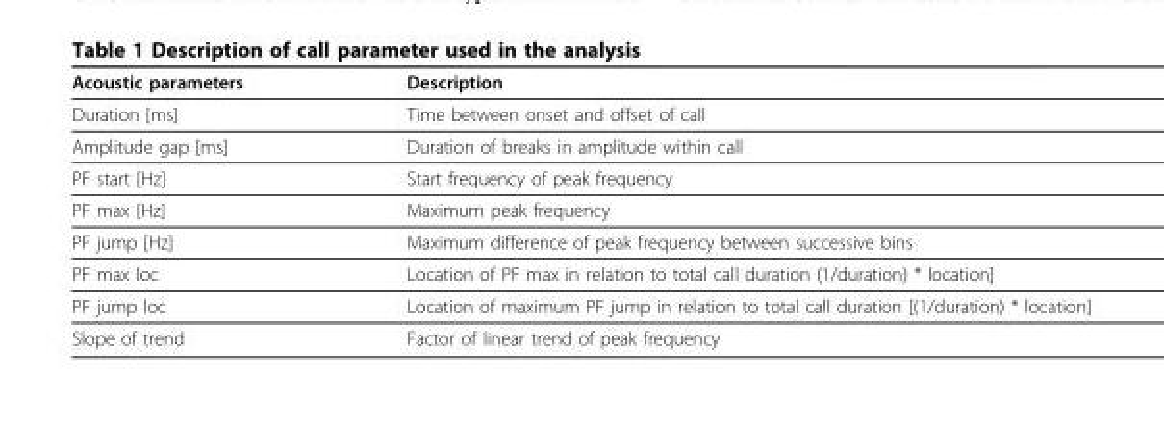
<table><thead><tr><td>Acoustic parameters</td><td>Description</td></tr></thead><tbody><tr><td>Duration [ms]</td><td>Time between onset and offset of call</td></tr><tr><td>Amplitude gap [ms]</td><td>Duration of breaks in amplitude within call</td></tr><tr><td>PF start [Hz]</td><td>Start frequency of peak frequency</td></tr><tr><td>PF max [Hz]</td><td>Maximum peak frequency</td></tr><tr><td>PF jump [Hz]</td><td>Maximum difference of peak frequency between successive bins</td></tr><tr><td>PF max loc</td><td>Location of PF max in relation to total call duration (1/duration) * location]</td></tr><tr><td>PF jump loc</td><td>Location of maximum PF jump in relation to total call duration [(1/duration) * location]</td></tr><tr><td>Slope of trend</td><td>Factor of linear trend of peak frequency</td></tr></tbody></table>